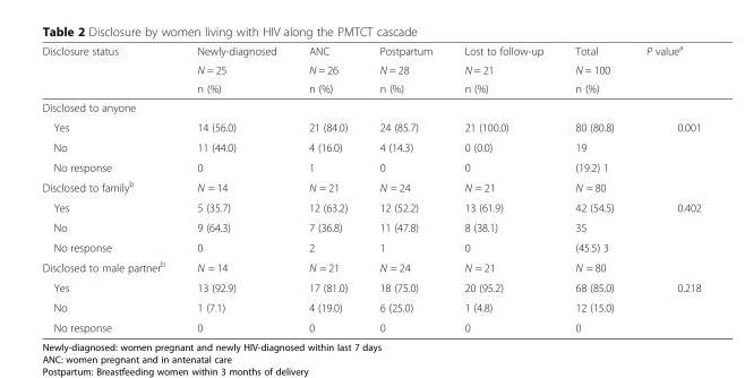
<table><thead><tr><td rowspan="3">Disclosure status</td><td rowspan="3">Newly-diagnosed N = 25 n (%)</td><td rowspan="3">ANC N = 26 n (%)</td><td rowspan="3">Postpartum N = 28 n (%)</td><td rowspan="3">Lost to follow-up N = 21 n (%)</td><td rowspan="3">Total N = 100 n (%)</td><td rowspan="3">P value<sup>a</sup></td></tr><tr></tr><tr></tr></thead><tbody><tr><td colspan="7">Disclosed to anyone</td></tr><tr><td>Yes</td><td>14 (56.0)</td><td>21 (84.0)</td><td>24 (85.7)</td><td>21 (100.0)</td><td>80 (80.8)</td><td rowspan="4">0.001</td></tr><tr><td>No</td><td>11 (44.0)</td><td>4 (16.0)</td><td>4 (14.3)</td><td>0 (0.0)</td><td>19</td></tr><tr><td>No response</td><td>0</td><td>1</td><td>0</td><td>0</td><td>(19.2) 1</td></tr><tr><td>Disclosed to family<sup>b</sup></td><td>N = 14</td><td>N = 21</td><td>N = 24</td><td>N = 21</td><td>N = 80</td></tr><tr><td>Yes</td><td>5 (35.7)</td><td>12 (63.2)</td><td>12 (52.2)</td><td>13 (61.9)</td><td>42 (54.5)</td><td rowspan="4">0.402</td></tr><tr><td>No</td><td>9 (64.3)</td><td>7 (36.8)</td><td>11 (47.8)</td><td>8 (38.1)</td><td>35</td></tr><tr><td>No response</td><td>0</td><td>2</td><td>1</td><td>0</td><td>(45.5) 3</td></tr><tr><td>Disclosed to male partner<sup>b</sup></td><td>N = 14</td><td>N = 21</td><td>N = 24</td><td>N = 21</td><td>N = 80</td></tr><tr><td>Yes</td><td>13 (92.9)</td><td>17 (81.0)</td><td>18 (75.0)</td><td>20 (95.2)</td><td>68 (85.0)</td><td rowspan="3">0.218</td></tr><tr><td>No</td><td>1 (7.1)</td><td>4 (19.0)</td><td>6 (25.0)</td><td>1 (4.8)</td><td>12 (15.0)</td></tr><tr><td>No response</td><td>0</td><td>0</td><td>0</td><td>0</td><td>0</td></tr></tbody></table>